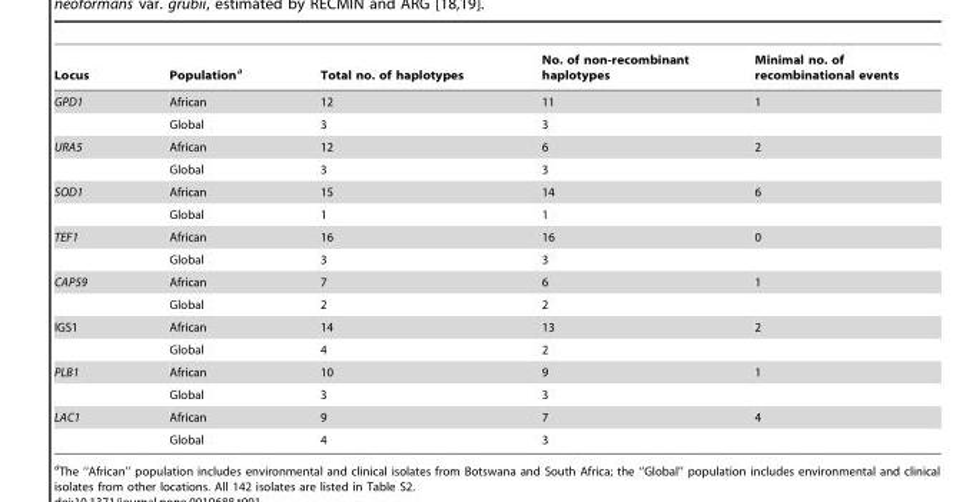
<table><thead><tr><td>Locus</td><td>Population<sup>a</sup></td><td>Total no. of haplotypes</td><td>No. of non-recombinant haplotypes</td><td>Minimal no. of recombinational events</td></tr></thead><tbody><tr><td rowspan="2">GPD1</td><td>African</td><td>12</td><td>11</td><td>1</td></tr><tr><td>Global</td><td>3</td><td>3</td><td></td></tr><tr><td rowspan="2">URA5</td><td>African</td><td>12</td><td>6</td><td>2</td></tr><tr><td>Global</td><td>3</td><td>3</td><td></td></tr><tr><td rowspan="2">SOD1</td><td>African</td><td>15</td><td>14</td><td>6</td></tr><tr><td>Global</td><td>1</td><td>1</td><td></td></tr><tr><td rowspan="2">TEF1</td><td>African</td><td>16</td><td>16</td><td>0</td></tr><tr><td>Global</td><td>3</td><td>3</td><td></td></tr><tr><td rowspan="2">CAP59</td><td>African</td><td>7</td><td>6</td><td>1</td></tr><tr><td>Global</td><td>2</td><td>2</td><td></td></tr><tr><td rowspan="2">IGS1</td><td>African</td><td>14</td><td>13</td><td>2</td></tr><tr><td>Global</td><td>4</td><td>2</td><td></td></tr><tr><td rowspan="2">PLB1</td><td>African</td><td>10</td><td>9</td><td>1</td></tr><tr><td>Global</td><td>3</td><td>3</td><td></td></tr><tr><td rowspan="2">LAC1</td><td>African</td><td>9</td><td>7</td><td>4</td></tr><tr><td>Global</td><td>4</td><td>3</td><td></td></tr></tbody></table>